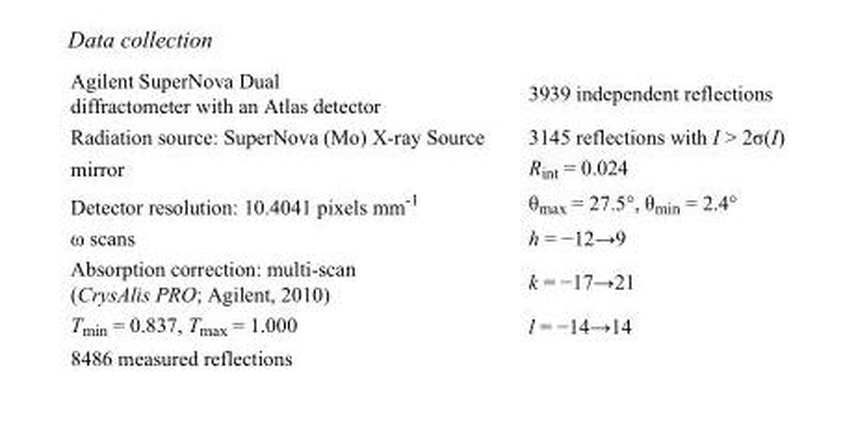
<table><tbody><tr><td>Agilent SuperNova Dual diffractometer with an Atlas detector</td><td>3939 independent reflections</td></tr><tr><td>Radiation source: SuperNova (Mo) X-ray Source</td><td>3145 reflections with I &gt; 2σ(I)</td></tr><tr><td>mirror</td><td>R<sub>int</sub> = 0.024</td></tr><tr><td>Detector resolution: 10.4041 pixels mm<sup>-1</sup></td><td>θ<sub>max</sub> = 27.5°, θ<sub>min</sub> = 2.4°</td></tr><tr><td>ω scans</td><td>h = −12→9</td></tr><tr><td>Absorption correction: multi-scan (CrysAlis PRO; Agilent, 2010)</td><td>k = −17→21</td></tr><tr><td>T<sub>min</sub> = 0.837, T<sub>max</sub> = 1.000</td><td>l = −14→14</td></tr><tr><td>8486 measured reflections</td><td></td></tr></tbody></table>